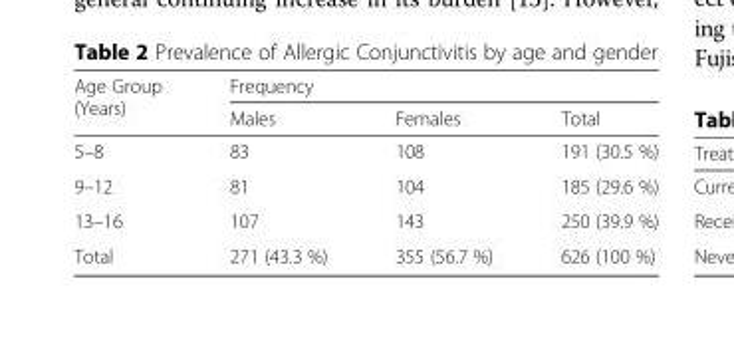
<table><thead><tr><td rowspan="2">Age Group (Years)</td><td colspan="3">Frequency</td></tr><tr><td>Males</td><td>Females</td><td>Total</td></tr></thead><tbody><tr><td>5–8</td><td>83</td><td>108</td><td>191 (30.5 %)</td></tr><tr><td>9–12</td><td>81</td><td>104</td><td>185 (29.6 %)</td></tr><tr><td>13–16</td><td>107</td><td>143</td><td>250 (39.9 %)</td></tr><tr><td>Total</td><td>271 (43.3 %)</td><td>355 (56.7 %)</td><td>626 (100 %)</td></tr></tbody></table>